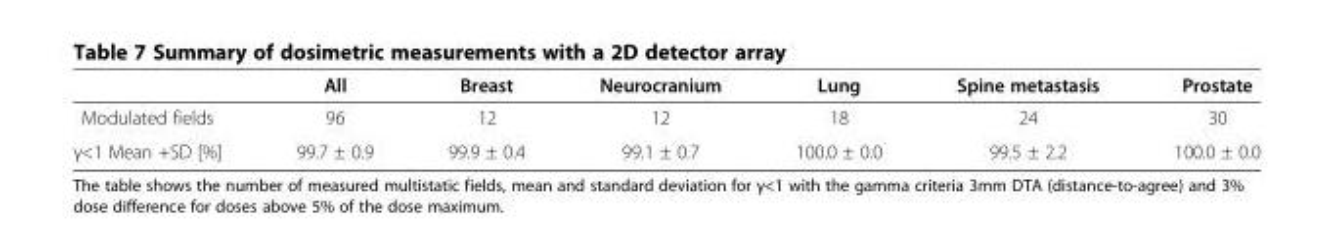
<table><thead><tr><td></td><td>All</td><td>Breast</td><td>Neurocranium</td><td>Lung</td><td>Spine metastasis</td><td>Prostate</td></tr></thead><tbody><tr><td>Modulated fields</td><td>96</td><td>12</td><td>12</td><td>18</td><td>24</td><td>30</td></tr><tr><td>γ&lt;1 Mean +SD [%]</td><td>99.7 ± 0.9</td><td>99.9 ± 0.4</td><td>99.1 ± 0.7</td><td>100.0 ± 0.0</td><td>99.5 ± 2.2</td><td>100.0 ± 0.0</td></tr></tbody></table>